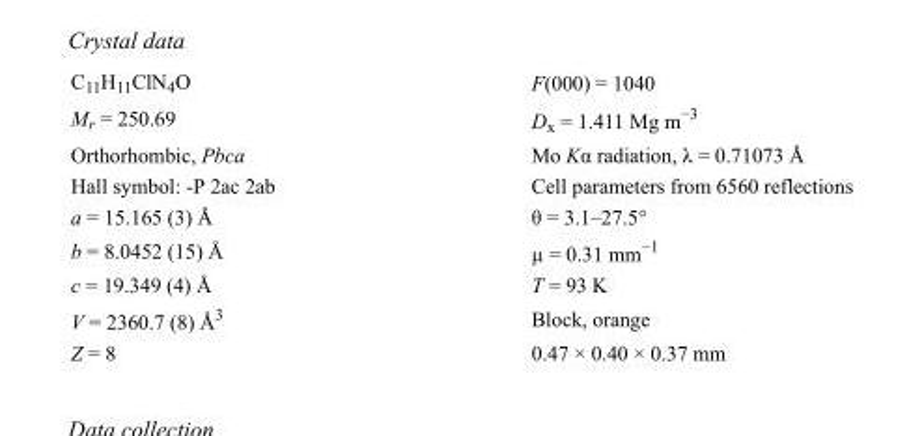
<table><tbody><tr><td>C<sub>11</sub>H<sub>11</sub>ClN<sub>4</sub>O</td><td>F(000) = 1040</td></tr><tr><td>M<sub>r</sub> = 250.69</td><td>D<sub>x</sub> = 1.411 Mg m<sup>−3</sup></td></tr><tr><td>Orthorhombic, Pbca</td><td>Mo Kα radiation, λ = 0.71073 Å</td></tr><tr><td>Hall symbol: -P 2ac 2ab</td><td>Cell parameters from 6560 reflections</td></tr><tr><td>a = 15.165 (3) Å</td><td>θ = 3.1–27.5°</td></tr><tr><td>b = 8.0452 (15) Å</td><td>µ = 0.31 mm<sup>−1</sup></td></tr><tr><td>c = 19.349 (4) Å</td><td>T = 93 K</td></tr><tr><td>V = 2360.7 (8) Å<sup>3</sup></td><td>Block, orange</td></tr><tr><td>Z = 8</td><td>0.47 × 0.40 × 0.37 mm</td></tr></tbody></table>